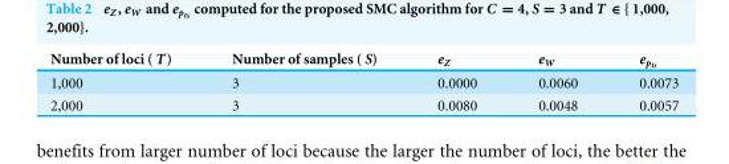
<table><thead><tr><td>Number of loci ( T)</td><td>Number of samples ( S)</td><td>e<sub>Z</sub></td><td>e<sub>W</sub></td><td>epts</td></tr></thead><tbody><tr><td>1,000</td><td>3</td><td>0.0000</td><td>0.0060</td><td>0.0073</td></tr><tr><td>2,000</td><td>3</td><td>0.0080</td><td>0.0048</td><td>0.0057</td></tr></tbody></table>